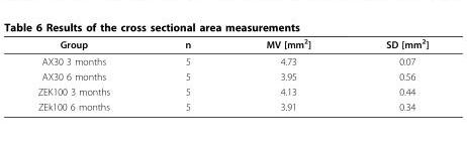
<table><thead><tr><td>Group</td><td>n</td><td>MV [mm<sup>2</sup>]</td><td>SD [mm<sup>2</sup>]</td></tr></thead><tbody><tr><td>AX30 3 months</td><td>5</td><td>4.73</td><td>0.07</td></tr><tr><td>AX30 6 months</td><td>5</td><td>3.95</td><td>0.56</td></tr><tr><td>ZEK100 3 months</td><td>5</td><td>4.13</td><td>0.44</td></tr><tr><td>ZEk100 6 months</td><td>5</td><td>3.91</td><td>0.34</td></tr></tbody></table>